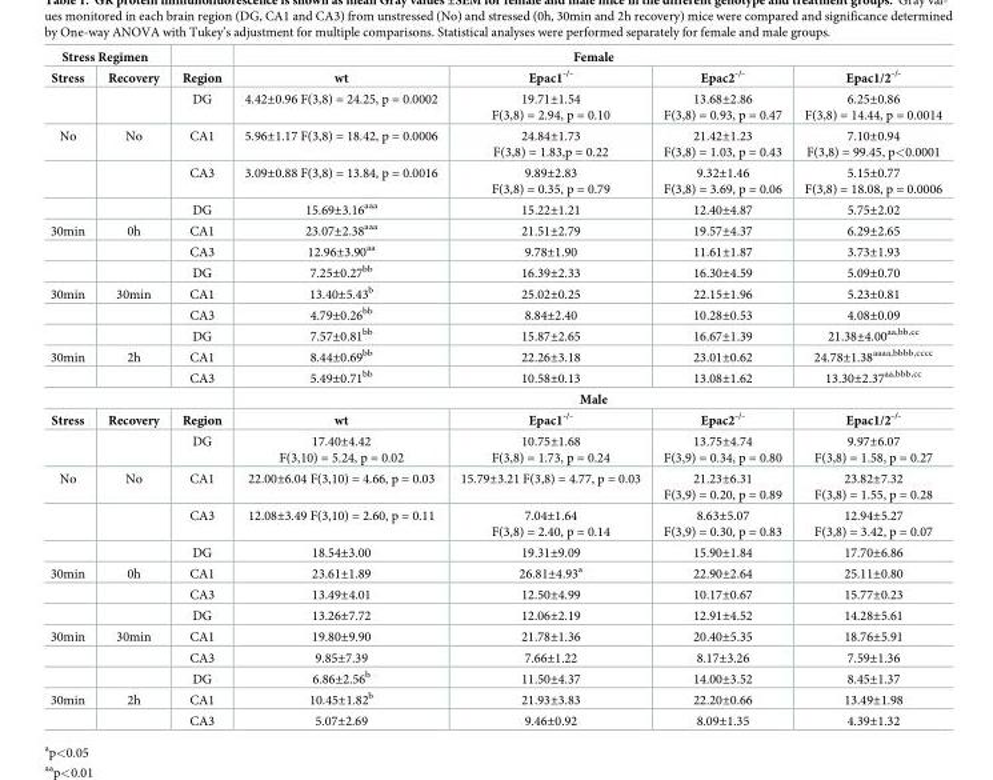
<table><tbody><tr><td colspan="2">Stress Regimen</td><td></td><td colspan="4">Female</td></tr><tr><td rowspan="2">Stress</td><td>Recovery</td><td>Region</td><td>wt</td><td>Epac1<sup>-/-</sup></td><td>Epac2<sup>-/-</sup></td><td>Epac1/2<sup>-/-</sup></td></tr><tr><td></td><td>DG</td><td>4.42±0.96 F(3,8) = 24.25, p = 0.0002</td><td>19.71±1.54 F(3,8) = 2.94, p = 0.10</td><td>13.68±2.86 F(3,8) = 0.93, p = 0.47</td><td>6.25±0.86 F(3,8) = 14.44, p = 0.0014</td></tr><tr><td rowspan="3">No</td><td>No</td><td>CA1</td><td>5.96±1.17 F(3,8) = 18.42, p = 0.0006</td><td>24.84±1.73 F(3,8) = 1.83,p = 0.22</td><td>21.42±1.23 F(3,8) = 1.03, p = 0.43</td><td>7.10±0.94 F(3,8) = 99.45, p&lt;0.0001</td></tr><tr><td></td><td>CA3</td><td>3.09±0.88 F(3,8) = 13.84, p = 0.0016</td><td>9.89±2.83 F(3,8) = 0.35, p = 0.79</td><td>9.32±1.46 F(3,8) = 3.69, p = 0.06</td><td>5.15±0.77 F(3,8) = 18.08, p = 0.0006</td></tr><tr><td></td><td>DG</td><td>15.69±3.16<sup>aaa</sup></td><td>15.22±1.21</td><td>12.40±4.87</td><td>5.75±2.02</td></tr><tr><td rowspan="3">30min</td><td>0h</td><td>CA1</td><td>23.07±2.38<sup>aaa</sup></td><td>21.51±2.79</td><td>19.57±4.37</td><td>6.29±2.65</td></tr><tr><td></td><td>CA3</td><td>12.96±3.90<sup>aa</sup></td><td>9.78±1.90</td><td>11.61±1.87</td><td>3.73±1.93</td></tr><tr><td></td><td>DG</td><td>7.25±0.27<sup>bb</sup></td><td>16.39±2.33</td><td>16.30±4.59</td><td>5.09±0.70</td></tr><tr><td rowspan="3">30min</td><td>30min</td><td>CA1</td><td>13.40±5.43<sup>b</sup></td><td>25.02±0.25</td><td>22.15±1.96</td><td>5.23±0.81</td></tr><tr><td></td><td>CA3</td><td>4.79±0.26<sup>bb</sup></td><td>8.84±2.40</td><td>10.28±0.53</td><td>4.08±0.09</td></tr><tr><td></td><td>DG</td><td>7.57±0.81<sup>bb</sup></td><td>15.87±2.65</td><td>16.67±1.39</td><td>21.38±4.00<sup>aa,bb,cc</sup></td></tr><tr><td rowspan="2">30min</td><td>2h</td><td>CA1</td><td>8.44±0.69<sup>bb</sup></td><td>22.26±3.18</td><td>23.01±0.62</td><td>24.78±1.38<sup>aaaa,bbbb,cccc</sup></td></tr><tr><td></td><td>CA3</td><td>5.49±0.71<sup>bb</sup></td><td>10.58±0.13</td><td>13.08±1.62</td><td>13.30±2.37<sup>aa,bbb,cc</sup></td></tr><tr><td colspan="3"></td><td colspan="4">Male</td></tr><tr><td rowspan="2">Stress</td><td>Recovery</td><td>Region</td><td>wt</td><td>Epac1<sup>-/-</sup></td><td>Epac2<sup>-/-</sup></td><td>Epac1/2<sup>-/-</sup></td></tr><tr><td></td><td>DG</td><td>17.40±4.42 F(3,10) = 5.24, p = 0.02</td><td>10.75±1.68 F(3,8) = 1.73, p = 0.24</td><td>13.75±4.74 F(3,9) = 0.34, p = 0.80</td><td>9.97±6.07 F(3,8) = 1.58, p = 0.27</td></tr><tr><td rowspan="3">No</td><td>No</td><td>CA1</td><td>22.00±6.04 F(3,10) = 4.66, p = 0.03</td><td>15.79±3.21 F(3,8) = 4.77, p = 0.03</td><td>21.23±6.31 F(3,9) = 0.20, p = 0.89</td><td>23.82±7.32 F(3,8) = 1.55, p = 0.28</td></tr><tr><td></td><td>CA3</td><td>12.08±3.49 F(3,10) = 2.60, p = 0.11</td><td>7.04±1.64 F(3,8) = 2.40, p = 0.14</td><td>8.63±5.07 F(3,9) = 0.30, p = 0.83</td><td>12.94±5.27 F(3,8) = 3.42, p = 0.07</td></tr><tr><td></td><td>DG</td><td>18.54±3.00</td><td>19.31±9.09</td><td>15.90±1.84</td><td>17.70±6.86</td></tr><tr><td rowspan="3">30min</td><td>0h</td><td>CA1</td><td>23.61±1.89</td><td>26.81±4.93<sup>a</sup></td><td>22.90±2.64</td><td>25.11±0.80</td></tr><tr><td></td><td>CA3</td><td>13.49±4.01</td><td>12.50±4.99</td><td>10.17±0.67</td><td>15.77±0.23</td></tr><tr><td></td><td>DG</td><td>13.26±7.72</td><td>12.06±2.19</td><td>12.91±4.52</td><td>14.28±5.61</td></tr><tr><td rowspan="3">30min</td><td>30min</td><td>CA1</td><td>19.80±9.90</td><td>21.78±1.36</td><td>20.40±5.35</td><td>18.76±5.91</td></tr><tr><td></td><td>CA3</td><td>9.85±7.39</td><td>7.66±1.22</td><td>8.17±3.26</td><td>7.59±1.36</td></tr><tr><td></td><td>DG</td><td>6.86±2.56<sup>b</sup></td><td>11.50±4.37</td><td>14.00±3.52</td><td>8.45±1.37</td></tr><tr><td rowspan="2">30min</td><td>2h</td><td>CA1</td><td>10.45±1.82<sup>b</sup></td><td>21.93±3.83</td><td>22.20±0.66</td><td>13.49±1.98</td></tr><tr><td></td><td>CA3</td><td>5.07±2.69</td><td>9.46±0.92</td><td>8.09±1.35</td><td>4.39±1.32</td></tr></tbody></table>